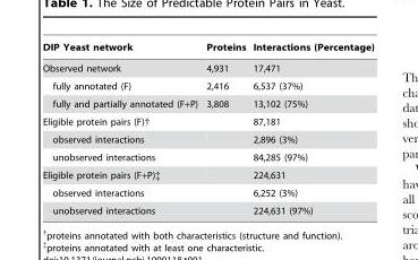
<table><thead><tr><td>DIP Yeast network</td><td>Proteins</td><td>Interactions (Percentage)</td></tr></thead><tbody><tr><td>Observed network</td><td>4,931</td><td>17,471</td></tr><tr><td>fully annotated (F)</td><td>2,416</td><td>6,537 (37%)</td></tr><tr><td>fully and partially annotated (F+P)</td><td>3,808</td><td>13,102 (75%)</td></tr><tr><td>Eligible protein pairs (F)†</td><td></td><td>87,181</td></tr><tr><td>observed interactions</td><td></td><td>2,896 (3%)</td></tr><tr><td>unobserved interactions</td><td></td><td>84,285 (97%)</td></tr><tr><td>Eligible protein pairs (F+P)‡</td><td></td><td>224,631</td></tr><tr><td>observed interactions</td><td></td><td>6,252 (3%)</td></tr><tr><td>unobserved interactions</td><td></td><td>224,631 (97%)</td></tr></tbody></table>